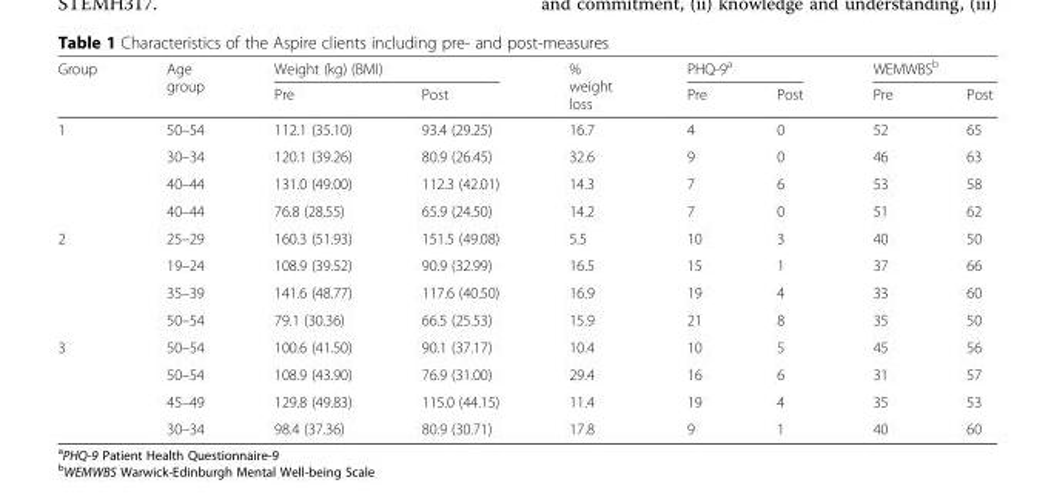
<table><thead><tr><td rowspan="2">Group</td><td rowspan="2">Age group</td><td colspan="2">Weight (kg) (BMI)</td><td rowspan="2">% weight loss</td><td colspan="2">PHQ-9<sup>a</sup></td><td colspan="2">WEMWBS<sup>b</sup></td></tr><tr><td>Pre</td><td>Post</td><td>Pre</td><td>Post</td><td>Pre</td><td>Post</td></tr></thead><tbody><tr><td rowspan="4">1</td><td>50–54</td><td>112.1 (35.10)</td><td>93.4 (29.25)</td><td>16.7</td><td>4</td><td>0</td><td>52</td><td>65</td></tr><tr><td>30–34</td><td>120.1 (39.26)</td><td>80.9 (26.45)</td><td>32.6</td><td>9</td><td>0</td><td>46</td><td>63</td></tr><tr><td>40–44</td><td>131.0 (49.00)</td><td>112.3 (42.01)</td><td>14.3</td><td>7</td><td>6</td><td>53</td><td>58</td></tr><tr><td>40–44</td><td>76.8 (28.55)</td><td>65.9 (24.50)</td><td>14.2</td><td>7</td><td>0</td><td>51</td><td>62</td></tr><tr><td rowspan="4">2</td><td>25–29</td><td>160.3 (51.93)</td><td>151.5 (49.08)</td><td>5.5</td><td>10</td><td>3</td><td>40</td><td>50</td></tr><tr><td>19–24</td><td>108.9 (39.52)</td><td>90.9 (32.99)</td><td>16.5</td><td>15</td><td>1</td><td>37</td><td>66</td></tr><tr><td>35–39</td><td>141.6 (48.77)</td><td>117.6 (40.50)</td><td>16.9</td><td>19</td><td>4</td><td>33</td><td>60</td></tr><tr><td>50–54</td><td>79.1 (30.36)</td><td>66.5 (25.53)</td><td>15.9</td><td>21</td><td>8</td><td>35</td><td>50</td></tr><tr><td rowspan="4">3</td><td>50–54</td><td>100.6 (41.50)</td><td>90.1 (37.17)</td><td>10.4</td><td>10</td><td>5</td><td>45</td><td>56</td></tr><tr><td>50–54</td><td>108.9 (43.90)</td><td>76.9 (31.00)</td><td>29.4</td><td>16</td><td>6</td><td>31</td><td>57</td></tr><tr><td>45–49</td><td>129.8 (49.83)</td><td>115.0 (44.15)</td><td>11.4</td><td>19</td><td>4</td><td>35</td><td>53</td></tr><tr><td>30–34</td><td>98.4 (37.36)</td><td>80.9 (30.71)</td><td>17.8</td><td>9</td><td>1</td><td>40</td><td>60</td></tr></tbody></table>